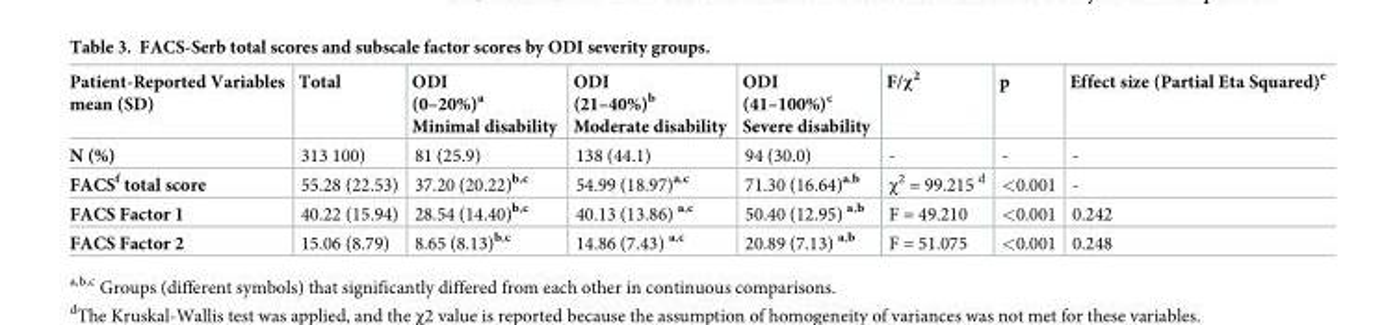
<table><thead><tr><td>Patient-Reported Variables mean (SD)</td><td>Total</td><td>ODI (0–20%)<sup>a</sup> Minimal disability</td><td>ODI (21–40%)<sup>b</sup> Moderate disability</td><td>ODI (41–100%)<sup>c</sup> Severe disability</td><td>F/χ<sup>2</sup></td><td>p</td><td>Effect size (Partial Eta Squared)<sup>e</sup></td></tr></thead><tbody><tr><td>N (%)</td><td>313 100)</td><td>81 (25.9)</td><td>138 (44.1)</td><td>94 (30.0)</td><td>-</td><td>-</td><td>-</td></tr><tr><td>FACS<sup>f</sup> total score</td><td>55.28 (22.53)</td><td>37.20 (20.22)<sup>b,c</sup></td><td>54.99 (18.97)<sup>a,c</sup></td><td>71.30 (16.64)<sup>a,b</sup></td><td>χ<sup>2</sup> = 99.215 <sup>d</sup></td><td>&lt;0.001</td><td>-</td></tr><tr><td>FACS Factor 1</td><td>40.22 (15.94)</td><td>28.54 (14.40)<sup>b,c</sup></td><td>40.13 (13.86) <sup>a,c</sup></td><td>50.40 (12.95) <sup>a,b</sup></td><td>F = 49.210</td><td>&lt;0.001</td><td>0.242</td></tr><tr><td>FACS Factor 2</td><td>15.06 (8.79)</td><td>8.65 (8.13)<sup>b,c</sup></td><td>14.86 (7.43) <sup>a,c</sup></td><td>20.89 (7.13) <sup>a,b</sup></td><td>F = 51.075</td><td>&lt;0.001</td><td>0.248</td></tr></tbody></table>